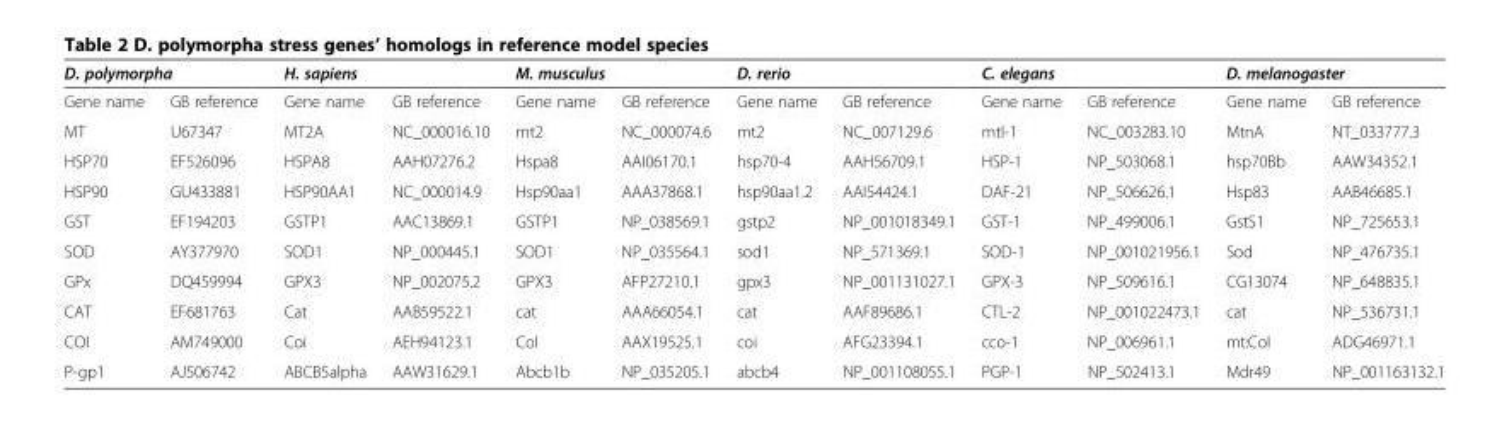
<table><thead><tr><td colspan="2">D. polymorpha</td><td colspan="2">H. sapiens</td><td colspan="2">M. musculus</td><td colspan="2">D. rerio</td><td colspan="2">C. elegans</td><td colspan="2">D. melanogaster</td></tr><tr><td>Gene name</td><td>GB reference</td><td>Gene name</td><td>GB reference</td><td>Gene name</td><td>GB reference</td><td>Gene name</td><td>GB reference</td><td>Gene name</td><td>GB reference</td><td>Gene name</td><td>GB reference</td></tr></thead><tbody><tr><td>MT</td><td>U67347</td><td>MT2A</td><td>NC_000016.10</td><td>mt2</td><td>NC_000074.6</td><td>mt2</td><td>NC_007129.6</td><td>mtl-1</td><td>NC_003283.10</td><td>MtnA</td><td>NT_033777.3</td></tr><tr><td>HSP70</td><td>EF526096</td><td>HSPA8</td><td>AAH07276.2</td><td>Hspa8</td><td>AAI06170.1</td><td>hsp70-4</td><td>AAH56709.1</td><td>HSP-1</td><td>NP_503068.1</td><td>hsp70Bb</td><td>AAW34352.1</td></tr><tr><td>HSP90</td><td>GU433881</td><td>HSP90AA1</td><td>NC_000014.9</td><td>Hsp90aa1</td><td>AAA37868.1</td><td>hsp90aa1.2</td><td>AAI54424.1</td><td>DAF-21</td><td>NP_506626.1</td><td>Hsp83</td><td>AAB46685.1</td></tr><tr><td>GST</td><td>EF194203</td><td>GSTP1</td><td>AAC13869.1</td><td>GSTP1</td><td>NP_038569.1</td><td>gstp2</td><td>NP_001018349.1</td><td>GST-1</td><td>NP_499006.1</td><td>GstS1</td><td>NP_725653.1</td></tr><tr><td>SOD</td><td>AY377970</td><td>SOD1</td><td>NP_000445.1</td><td>SOD1</td><td>NP_035564.1</td><td>sod1</td><td>NP_571369.1</td><td>SOD-1</td><td>NP_001021956.1</td><td>Sod</td><td>NP_476735.1</td></tr><tr><td>GPx</td><td>DQ459994</td><td>GPX3</td><td>NP_002075.2</td><td>GPX3</td><td>AFP27210.1</td><td>gpx3</td><td>NP_001131027.1</td><td>GPX-3</td><td>NP_509616.1</td><td>CG13074</td><td>NP_648835.1</td></tr><tr><td>CAT</td><td>EF681763</td><td>Cat</td><td>AAB59522.1</td><td>cat</td><td>AAA66054.1</td><td>cat</td><td>AAF89686.1</td><td>CTL-2</td><td>NP_001022473.1</td><td>cat</td><td>NP_536731.1</td></tr><tr><td>COI</td><td>AM749000</td><td>Coi</td><td>AEH94123.1</td><td>CoI</td><td>AAX19525.1</td><td>coi</td><td>AFG23394.1</td><td>cco-1</td><td>NP_006961.1</td><td>mt:CoI</td><td>ADG46971.1</td></tr><tr><td>P-gp1</td><td>AJ506742</td><td>ABCB5alpha</td><td>AAW31629.1</td><td>Abcb1b</td><td>NP_035205.1</td><td>abcb4</td><td>NP_001108055.1</td><td>PGP-1</td><td>NP_502413.1</td><td>Mdr49</td><td>NP_001163132.1</td></tr></tbody></table>